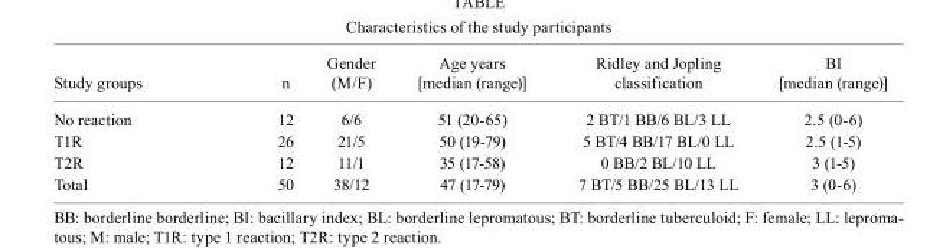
<table><thead><tr><td>Study groups</td><td>n</td><td>Gender (M/F)</td><td>Age years [median (range)]</td><td>Ridley and Jopling classification</td><td>BI [median (range)]</td></tr></thead><tbody><tr><td>No reaction</td><td>12</td><td>6/6</td><td>51 (20-65)</td><td>2 BT/1 BB/6 BL/3 LL</td><td>2.5 (0-6)</td></tr><tr><td>T1R</td><td>26</td><td>21/5</td><td>50 (19-79)</td><td>5 BT/4 BB/17 BL/0 LL</td><td>2.5 (1-5)</td></tr><tr><td>T2R</td><td>12</td><td>11/1</td><td>35 (17-58)</td><td>0 BB/2 BL/10 LL</td><td>3 (1-5)</td></tr><tr><td>Total</td><td>50</td><td>38/12</td><td>47 (17-79)</td><td>7 BT/5 BB/25 BL/13 LL</td><td>3 (0-6)</td></tr></tbody></table>